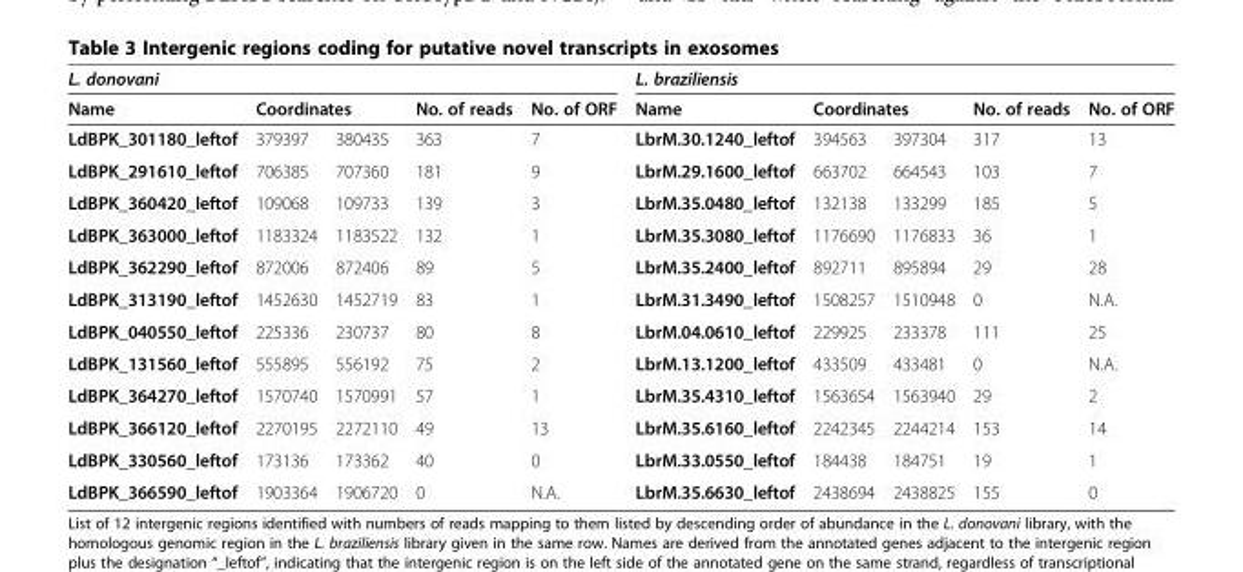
<table><thead><tr><td colspan="5">L. donovani</td><td colspan="5">L. braziliensis</td></tr><tr><td rowspan="2">Name LdBPK_301180_leftof</td><td colspan="2">Coordinates</td><td rowspan="2">No. of reads 363</td><td rowspan="2">No. of ORF 7</td><td rowspan="2">Name LbrM.30.1240_leftof</td><td colspan="2">Coordinates</td><td rowspan="2">No. of reads 317</td><td rowspan="2">No. of ORF 13</td></tr><tr><td>379397</td><td>380435</td><td>394563</td><td>397304</td></tr></thead><tbody><tr><td>LdBPK_291610_leftof</td><td>706385</td><td>707360</td><td>181</td><td>9</td><td>LbrM.29.1600_leftof</td><td>663702</td><td>664543</td><td>103</td><td>7</td></tr><tr><td>LdBPK_360420_leftof</td><td>109068</td><td>109733</td><td>139</td><td>3</td><td>LbrM.35.0480_leftof</td><td>132138</td><td>133299</td><td>185</td><td>5</td></tr><tr><td>LdBPK_363000_leftof</td><td>1183324</td><td>1183522</td><td>132</td><td>1</td><td>LbrM.35.3080_leftof</td><td>1176690</td><td>1176833</td><td>36</td><td>1</td></tr><tr><td>LdBPK_362290_leftof</td><td>872006</td><td>872406</td><td>89</td><td>5</td><td>LbrM.35.2400_leftof</td><td>892711</td><td>895894</td><td>29</td><td>28</td></tr><tr><td>LdBPK_313190_leftof</td><td>1452630</td><td>1452719</td><td>83</td><td>1</td><td>LbrM.31.3490_leftof</td><td>1508257</td><td>1510948</td><td>0</td><td>N.A.</td></tr><tr><td>LdBPK_040550_leftof</td><td>225336</td><td>230737</td><td>80</td><td>8</td><td>LbrM.04.0610_leftof</td><td>229925</td><td>233378</td><td>111</td><td>25</td></tr><tr><td>LdBPK_131560_leftof</td><td>555895</td><td>556192</td><td>75</td><td>2</td><td>LbrM.13.1200_leftof</td><td>433509</td><td>433481</td><td>0</td><td>N.A.</td></tr><tr><td>LdBPK_364270_leftof</td><td>1570740</td><td>1570991</td><td>57</td><td>1</td><td>LbrM.35.4310_leftof</td><td>1563654</td><td>1563940</td><td>29</td><td>2</td></tr><tr><td>LdBPK_366120_leftof</td><td>2270195</td><td>2272110</td><td>49</td><td>13</td><td>LbrM.35.6160_leftof</td><td>2242345</td><td>2244214</td><td>153</td><td>14</td></tr><tr><td>LdBPK_330560_leftof</td><td>173136</td><td>173362</td><td>40</td><td>0</td><td>LbrM.33.0550_leftof</td><td>184438</td><td>184751</td><td>19</td><td>1</td></tr><tr><td>LdBPK_366590_leftof</td><td>1903364</td><td>1906720</td><td>0</td><td>N.A.</td><td>LbrM.35.6630_leftof</td><td>2438694</td><td>2438825</td><td>155</td><td>0</td></tr></tbody></table>